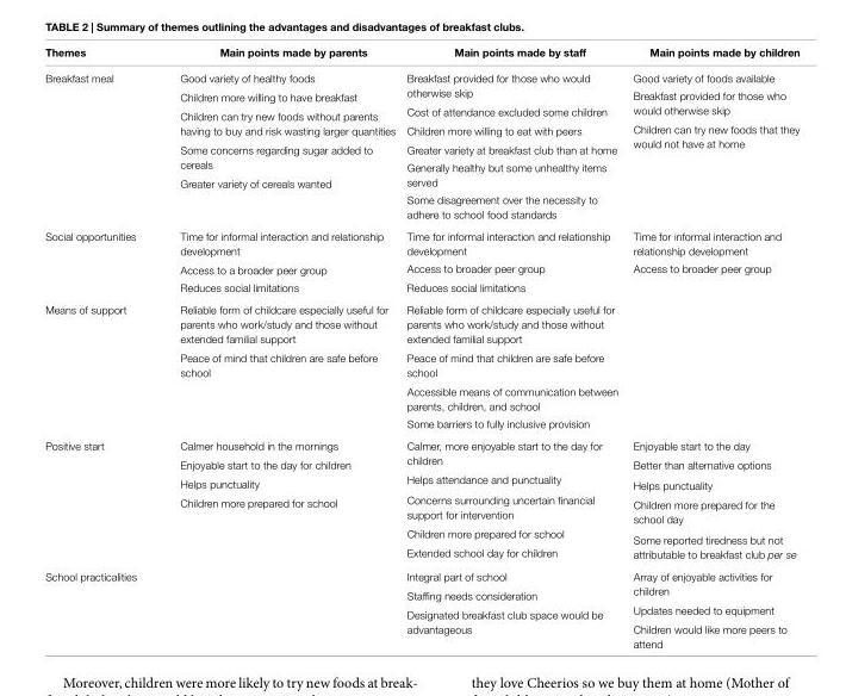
<table><thead><tr><td>Themes</td><td>Main points made by parents</td><td>Main points made by staff</td><td>Main points made by children</td></tr></thead><tbody><tr><td>Breakfast meal</td><td>Good variety of healthy foods Children more willing to have breakfast Children can try new foods without parents having to buy and risk wasting larger quantities Some concerns regarding sugar added to cereals Greater variety of cereals wanted</td><td>Breakfast provided for those who would otherwise skip Cost of attendance excluded some children Children more willing to eat with peers Greater variety at breakfast club than at home Generally healthy but some unhealthy items served Some disagreement over the necessity to adhere to school food standards</td><td>Good variety of foods available Breakfast provided for those who would otherwise skip Children can try new foods that they would not have at home</td></tr><tr><td>Social opportunities</td><td>Time for informal interaction and relationship development Access to a broader peer group Reduces social limitations</td><td>Time for informal interaction and relationship development Access to broader peer group Reduces social limitations</td><td>Time for informal interaction and relationship development Access to broader peer group</td></tr><tr><td>Means of support</td><td>Reliable form of childcare especially useful for parents who work/study and those without extended familial support Peace of mind that children are safe before school</td><td>Reliable form of childcare especially useful for parents who work/study and those without extended familial support Peace of mind that children are safe before school Accessible means of communication between parents, children, and school Some barriers to fully inclusive provision</td><td></td></tr><tr><td>Positive start</td><td>Calmer household in the mornings Enjoyable start to the day for children Helps punctuality Children more prepared for school</td><td>Calmer, more enjoyable start to the day for children Helps attendance and punctuality Concerns surrounding uncertain financial support for intervention Children more prepared for school Extended school day for children</td><td>Enjoyable start to the day Better than alternative options Helps punctuality Children more prepared for the school day Some reported tiredness but not attributable to breakfast club per se</td></tr><tr><td>School practicalities</td><td></td><td>Integral part of school Staffing needs consideration Designated breakfast club space would be advantageous</td><td>Array of enjoyable activities for children Updates needed to equipment Children would like more peers to attend</td></tr></tbody></table>